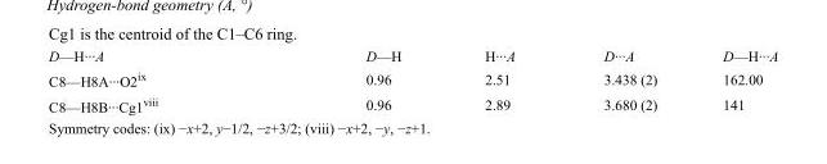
<table><tbody><tr><td>D—H···A</td><td>D—H</td><td>H···A</td><td>D···A</td><td>D—H···A</td></tr><tr><td>C8—H8A···O2<sup>ix</sup></td><td>0.96</td><td>2.51</td><td>3.438 (2)</td><td>162.00</td></tr><tr><td>C8—H8B···Cg1<sup>viii</sup></td><td>0.96</td><td>2.89</td><td>3.680 (2)</td><td>141</td></tr></tbody></table>